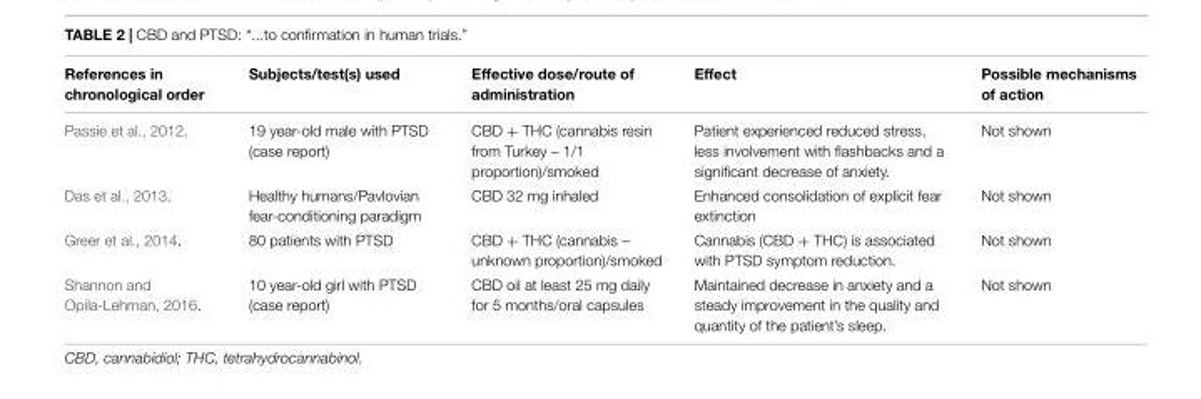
<table><thead><tr><td>References in chronological order</td><td>Subjects/test(s) used</td><td>Effective dose/route of administration</td><td>Effect</td><td>Possible mechanisms of action</td></tr></thead><tbody><tr><td>Passie et al., 2012.</td><td>19 year-old male with PTSD (case report)</td><td>CBD + THC (cannabis resin from Turkey – 1/1 proportion)/smoked</td><td>Patient experienced reduced stress, less involvement with flashbacks and a significant decrease of anxiety.</td><td>Not shown</td></tr><tr><td>Das et al., 2013.</td><td>Healthy humans/Pavlovian fear-conditioning paradigm</td><td>CBD 32 mg inhaled</td><td>Enhanced consolidation of explicit fear extinction</td><td>Not shown</td></tr><tr><td>Greer et al., 2014.</td><td>80 patients with PTSD</td><td>CBD + THC (cannabis – unknown proportion)/smoked</td><td>Cannabis (CBD + THC) is associated with PTSD symptom reduction.</td><td>Not shown</td></tr><tr><td>Shannon and Opila-Lehman, 2016.</td><td>10 year-old girl with PTSD (case report)</td><td>CBD oil at least 25 mg daily for 5 months/oral capsules</td><td>Maintained decrease in anxiety and a steady improvement in the quality and quantity of the patient’s sleep.</td><td>Not shown</td></tr></tbody></table>